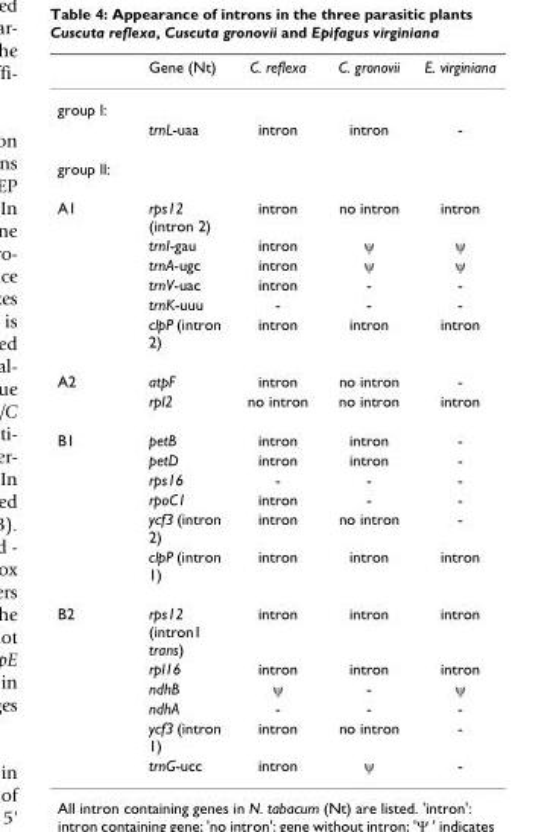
<table><thead><tr><td></td><td>Gene (Nt)</td><td>C. reflexa</td><td>C. gronovii</td><td>E. virginiana</td></tr></thead><tbody><tr><td colspan="5">group l:</td></tr><tr><td></td><td>trnL-uaa</td><td>intron</td><td>intron</td><td>-</td></tr><tr><td colspan="5">group ll:</td></tr><tr><td rowspan="6">A1</td><td>rps12 (intron 2)</td><td>intron</td><td>no intron</td><td>intron</td></tr><tr><td>trnI-gau</td><td>intron</td><td>ψ</td><td>ψ</td></tr><tr><td>trnA-ugc</td><td>intron</td><td>ψ</td><td>ψ</td></tr><tr><td>trnV-uac</td><td>intron</td><td>-</td><td>-</td></tr><tr><td>trnK-uuu</td><td>-</td><td>-</td><td>-</td></tr><tr><td>clpP (intron 2)</td><td>intron</td><td>intron</td><td>intron</td></tr><tr><td rowspan="2">A2</td><td>atpF</td><td>intron</td><td>no intron</td><td>-</td></tr><tr><td>rpl2</td><td>no intron</td><td>no intron</td><td>intron</td></tr><tr><td rowspan="6">B1</td><td>petB</td><td>intron</td><td>intron</td><td>-</td></tr><tr><td>petD</td><td>intron</td><td>intron</td><td>-</td></tr><tr><td>rps16</td><td>-</td><td>-</td><td>-</td></tr><tr><td>rpoC1</td><td>intron</td><td>-</td><td>-</td></tr><tr><td>ycf3 (intron 2)</td><td>intron</td><td>no intron</td><td>-</td></tr><tr><td>clpP (intron 1)</td><td>intron</td><td>intron</td><td>intron</td></tr><tr><td rowspan="6">B2</td><td>rps12 (intron1 trans)</td><td>intron</td><td>intron</td><td>intron</td></tr><tr><td>rpl16</td><td>intron</td><td>intron</td><td>intron</td></tr><tr><td>ndhB</td><td>ψ</td><td>-</td><td>ψ</td></tr><tr><td>ndhA</td><td>-</td><td>-</td><td>-</td></tr><tr><td>ycf3 (intron 1)</td><td>intron</td><td>no intron</td><td>-</td></tr><tr><td>trnG-ucc</td><td>intron</td><td>ψ</td><td>-</td></tr></tbody></table>